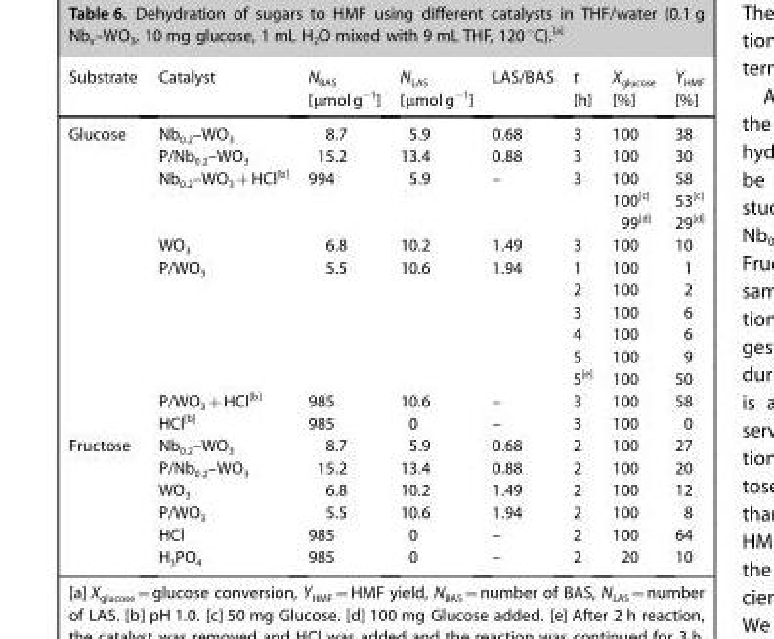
<table><thead><tr><td>Substrate</td><td>Catalyst</td><td>N<sub>BAS</sub> [μmolg<sup>−1</sup>]</td><td>N<sub>LAS</sub> [μmolg<sup>−1</sup>]</td><td>LAS/BAS</td><td>t [h]</td><td>X<sub>glucose</sub> [%]</td><td>Y<sub>HMF</sub> [%]</td></tr></thead><tbody><tr><td rowspan="14">Glucose</td><td>Nb<sub>0.2</sub>–WO<sub>3</sub></td><td>8.7</td><td>5.9</td><td>0.68</td><td>3</td><td>100</td><td>38</td></tr><tr><td>P/Nb<sub>0.2</sub>–WO<sub>3</sub></td><td>15.2</td><td>13.4</td><td>0.88</td><td>3</td><td>100</td><td>30</td></tr><tr><td rowspan="3">Nb<sub>0.2</sub>–WO<sub>3</sub>+HCl<sup>[b]</sup></td><td rowspan="3">994</td><td rowspan="3">5.9</td><td rowspan="3">–</td><td rowspan="3">3</td><td>100</td><td>58</td></tr><tr><td>100<sup>[c]</sup></td><td>53<sup>[c]</sup></td></tr><tr><td>99<sup>[d]</sup></td><td>29<sup>[d]</sup></td></tr><tr><td>WO<sub>3</sub></td><td>6.8</td><td>10.2</td><td>1.49</td><td>3</td><td>100</td><td>10</td></tr><tr><td rowspan="6">P/WO<sub>3</sub></td><td rowspan="6">5.5</td><td rowspan="6">10.6</td><td rowspan="6">1.94</td><td>1</td><td>100</td><td>1</td></tr><tr><td>2</td><td>100</td><td>2</td></tr><tr><td>3</td><td>100</td><td>6</td></tr><tr><td>4</td><td>100</td><td>6</td></tr><tr><td>5</td><td>100</td><td>9</td></tr><tr><td>5<sup>[e]</sup></td><td>100</td><td>50</td></tr><tr><td>P/WO<sub>3</sub>+HCl<sup>[b]</sup></td><td>985</td><td>10.6</td><td>–</td><td>3</td><td>100</td><td>58</td></tr><tr><td>HCl<sup>[b]</sup></td><td>985</td><td>0</td><td>–</td><td>3</td><td>100</td><td>0</td></tr><tr><td rowspan="6">Fructose</td><td>Nb<sub>0.2</sub>–WO<sub>3</sub></td><td>8.7</td><td>5.9</td><td>0.68</td><td>2</td><td>100</td><td>27</td></tr><tr><td>P/Nb<sub>0.2</sub>–WO<sub>3</sub></td><td>15.2</td><td>13.4</td><td>0.88</td><td>2</td><td>100</td><td>20</td></tr><tr><td>WO<sub>3</sub></td><td>6.8</td><td>10.2</td><td>1.49</td><td>2</td><td>100</td><td>12</td></tr><tr><td>P/WO<sub>3</sub></td><td>5.5</td><td>10.6</td><td>1.94</td><td>2</td><td>100</td><td>8</td></tr><tr><td>HCl</td><td>985</td><td>0</td><td>–</td><td>2</td><td>100</td><td>64</td></tr><tr><td>H<sub>3</sub>PO<sub>4</sub></td><td>985</td><td>0</td><td>–</td><td>2</td><td>20</td><td>10</td></tr></tbody></table>